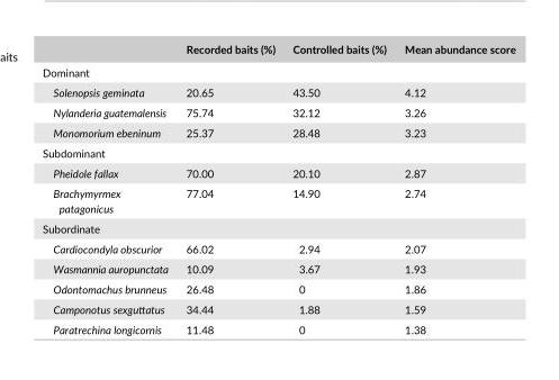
<table><thead><tr><td></td><td>Recorded baits (%)</td><td>Controlled baits (%)</td><td>Mean abundance score</td></tr></thead><tbody><tr><td colspan="4">Dominant</td></tr><tr><td>Solenopsis geminata</td><td>20.65</td><td>43.50</td><td>4.12</td></tr><tr><td>Nylanderia guatemalensis</td><td>75.74</td><td>32.12</td><td>3.26</td></tr><tr><td>Monomorium ebeninum</td><td>25.37</td><td>28.48</td><td>3.23</td></tr><tr><td colspan="4">Subdominant</td></tr><tr><td>Pheidole fallax</td><td>70.00</td><td>20.10</td><td>2.87</td></tr><tr><td>Brachymyrmex patagonicus</td><td>77.04</td><td>14.90</td><td>2.74</td></tr><tr><td colspan="4">Subordinate</td></tr><tr><td>Cardiocondyla obscurior</td><td>66.02</td><td>2.94</td><td>2.07</td></tr><tr><td>Wasmannia auropunctata</td><td>10.09</td><td>3.67</td><td>1.93</td></tr><tr><td>Odontomachus brunneus</td><td>26.48</td><td>0</td><td>1.86</td></tr><tr><td>Camponotus sexguttatus</td><td>34.44</td><td>1.88</td><td>1.59</td></tr><tr><td>Paratrechina longicornis</td><td>11.48</td><td>0</td><td>1.38</td></tr></tbody></table>